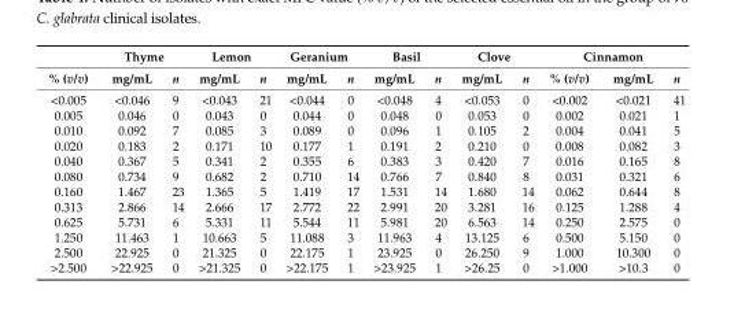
<table><thead><tr><td rowspan="2">% (v/v)</td><td colspan="2">Thyme</td><td colspan="2">Lemon</td><td colspan="2">Geranium</td><td colspan="2">Basil</td><td colspan="2">Clove</td><td colspan="3">Cinnamon</td></tr><tr><td>mg/mL</td><td>n</td><td>mg/mL</td><td>n</td><td>mg/mL</td><td>n</td><td>mg/mL</td><td>n</td><td>mg/mL</td><td>n</td><td>% (v/v)</td><td>mg/mL</td><td>n</td></tr></thead><tbody><tr><td>&lt;0.005</td><td>&lt;0.046</td><td>9</td><td>&lt;0.043</td><td>21</td><td>&lt;0.044</td><td>0</td><td>&lt;0.048</td><td>4</td><td>&lt;0.053</td><td>0</td><td>&lt;0.002</td><td>&lt;0.021</td><td>41</td></tr><tr><td>0.005</td><td>0.046</td><td>0</td><td>0.043</td><td>0</td><td>0.044</td><td>0</td><td>0.048</td><td>0</td><td>0.053</td><td>0</td><td>0.002</td><td>0.021</td><td>1</td></tr><tr><td>0.010</td><td>0.092</td><td>7</td><td>0.085</td><td>3</td><td>0.089</td><td>0</td><td>0.096</td><td>1</td><td>0.105</td><td>2</td><td>0.004</td><td>0.041</td><td>5</td></tr><tr><td>0.020</td><td>0.183</td><td>2</td><td>0.171</td><td>10</td><td>0.177</td><td>1</td><td>0.191</td><td>2</td><td>0.210</td><td>0</td><td>0.008</td><td>0.082</td><td>3</td></tr><tr><td>0.040</td><td>0.367</td><td>5</td><td>0.341</td><td>2</td><td>0.355</td><td>6</td><td>0.383</td><td>3</td><td>0.420</td><td>7</td><td>0.016</td><td>0.165</td><td>8</td></tr><tr><td>0.080</td><td>0.734</td><td>9</td><td>0.682</td><td>2</td><td>0.710</td><td>14</td><td>0.766</td><td>7</td><td>0.840</td><td>8</td><td>0.031</td><td>0.321</td><td>6</td></tr><tr><td>0.160</td><td>1.467</td><td>23</td><td>1.365</td><td>5</td><td>1.419</td><td>17</td><td>1.531</td><td>14</td><td>1.680</td><td>14</td><td>0.062</td><td>0.644</td><td>8</td></tr><tr><td>0.313</td><td>2.866</td><td>14</td><td>2.666</td><td>17</td><td>2.772</td><td>22</td><td>2.991</td><td>20</td><td>3.281</td><td>16</td><td>0.125</td><td>1.288</td><td>4</td></tr><tr><td>0.625</td><td>5.731</td><td>6</td><td>5.331</td><td>11</td><td>5.544</td><td>11</td><td>5.981</td><td>20</td><td>6.563</td><td>14</td><td>0.250</td><td>2.575</td><td>0</td></tr><tr><td>1.250</td><td>11.463</td><td>1</td><td>10.663</td><td>5</td><td>11.088</td><td>3</td><td>11.963</td><td>4</td><td>13.125</td><td>6</td><td>0.500</td><td>5.150</td><td>0</td></tr><tr><td>2.500</td><td>22.925</td><td>0</td><td>21.325</td><td>0</td><td>22.175</td><td>1</td><td>23.925</td><td>0</td><td>26.250</td><td>9</td><td>1.000</td><td>10.300</td><td>0</td></tr><tr><td>&gt;2.500</td><td>&gt;22.925</td><td>0</td><td>&gt;21.325</td><td>0</td><td>&gt;22.175</td><td>1</td><td>&gt;23.925</td><td>1</td><td>&gt;26.25</td><td>0</td><td>&gt;1.000</td><td>&gt;10.3</td><td>0</td></tr></tbody></table>